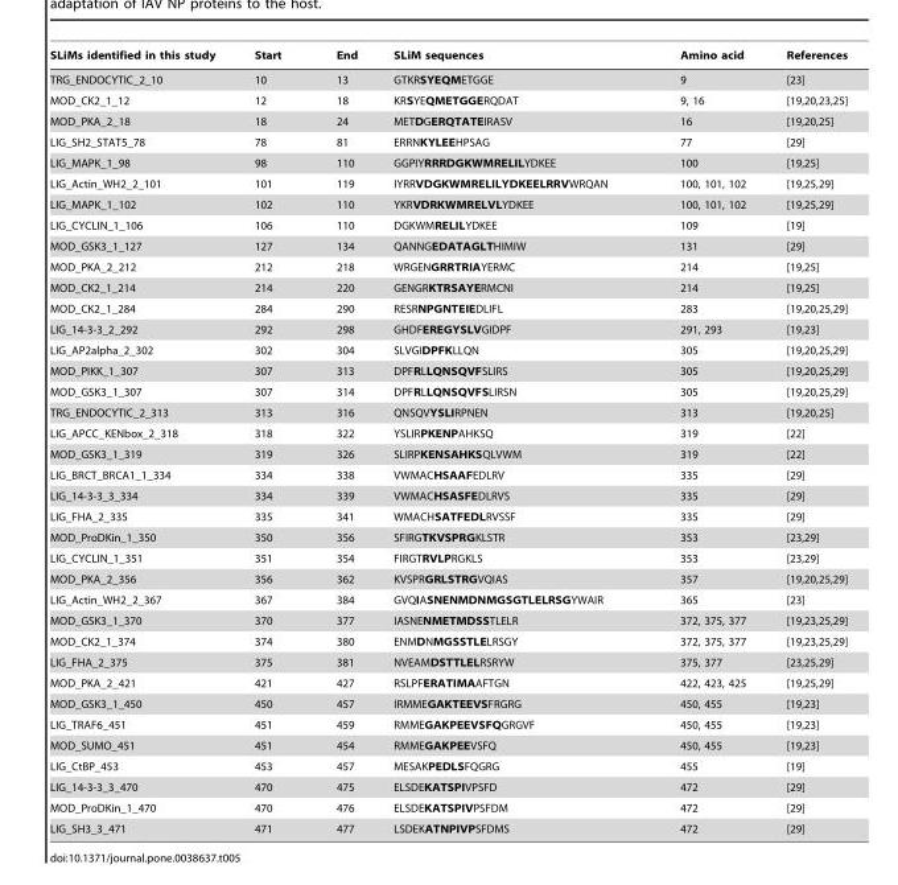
<table><thead><tr><td>SLiMs identified in this study</td><td>Start</td><td>End</td><td>SLiM sequences</td><td>Amino acid</td><td>References</td></tr></thead><tbody><tr><td>TRG_ENDOCYTIC_2_10</td><td>10</td><td>13</td><td>GTKRSYEQMETGGE</td><td>9</td><td>[23]</td></tr><tr><td>MOD_CK2_1_12</td><td>12</td><td>18</td><td>KRSYEQMETGGERQDAT</td><td>9, 16</td><td>[19,20,23,25]</td></tr><tr><td>MOD_PKA_2_18</td><td>18</td><td>24</td><td>METDGERQTATEIRASV</td><td>16</td><td>[19,20,25]</td></tr><tr><td>LIG_SH2_STAT5_78</td><td>78</td><td>81</td><td>ERRNKYLEEHPSAG</td><td>77</td><td>[29]</td></tr><tr><td>LIG_MAPK_1_98</td><td>98</td><td>110</td><td>GGPIYRRRDGKWMRELILYDKEE</td><td>100</td><td>[19,25]</td></tr><tr><td>LIG_Actin_WH2_2_101</td><td>101</td><td>119</td><td>IYRRVDGKWMRELILYDKEELRRVWRQAN</td><td>100, 101, 102</td><td>[19,25,29]</td></tr><tr><td>LIG_MAPK_1_102</td><td>102</td><td>110</td><td>YKRVDRKWMRELVLYDKEE</td><td>100, 101, 102</td><td>[19,25,29]</td></tr><tr><td>LIG_CYCLIN_1_106</td><td>106</td><td>110</td><td>DGKWMRELILYDKEE</td><td>109</td><td>[19]</td></tr><tr><td>MOD_GSK3_1_127</td><td>127</td><td>134</td><td>QANNGEDATAGLTHIMIW</td><td>131</td><td>[29]</td></tr><tr><td>MOD_PKA_2_212</td><td>212</td><td>218</td><td>WRGENGRRTRIAYERMC</td><td>214</td><td>[19,25]</td></tr><tr><td>MOD_CK2_1_214</td><td>214</td><td>220</td><td>GENGRKTRSAYERMCNI</td><td>214</td><td>[19,25]</td></tr><tr><td>MOD_CK2_1_284</td><td>284</td><td>290</td><td>RESRNPGNTEIEDLIFL</td><td>283</td><td>[19,20,25,29]</td></tr><tr><td>LIG_14-3-3_2_292</td><td>292</td><td>298</td><td>GHDFEREGYSLVGIDPF</td><td>291, 293</td><td>[19,23]</td></tr><tr><td>LIG_AP2alpha_2_302</td><td>302</td><td>304</td><td>SLVGIDPFKLLQN</td><td>305</td><td>[19,20,25,29]</td></tr><tr><td>MOD_PIKK_1_307</td><td>307</td><td>313</td><td>DPFRLLQNSQVFSLIRS</td><td>305</td><td>[19,20,25,29]</td></tr><tr><td>MOD_GSK3_1_307</td><td>307</td><td>314</td><td>DPFRLLQNSQVFSLIRSN</td><td>305</td><td>[19,20,25,29]</td></tr><tr><td>TRG_ENDOCYTIC_2_313</td><td>313</td><td>316</td><td>QNSQVYSLIRPNEN</td><td>313</td><td>[19,20,25]</td></tr><tr><td>LIG_APCC_KENbox_2_318</td><td>318</td><td>322</td><td>YSLIRPKENPAHKSQ</td><td>319</td><td>[22]</td></tr><tr><td>MOD_GSK3_1_319</td><td>319</td><td>326</td><td>SLIRPKENSAHKSQLVWM</td><td>319</td><td>[22]</td></tr><tr><td>LIG_BRCT_BRCA1_1_334</td><td>334</td><td>338</td><td>VWMACHSAAFEDLRV</td><td>335</td><td>[29]</td></tr><tr><td>LIG_14-3-3_3_334</td><td>334</td><td>339</td><td>VWMACHSASFEDLRVS</td><td>335</td><td>[29]</td></tr><tr><td>LIG_FHA_2_335</td><td>335</td><td>341</td><td>WMACHSATFEDLRVSSF</td><td>335</td><td>[29]</td></tr><tr><td>MOD_ProDKin_1_350</td><td>350</td><td>356</td><td>SFIRGTKVSPRGKLSTR</td><td>353</td><td>[23,29]</td></tr><tr><td>LIG_CYCLIN_1_351</td><td>351</td><td>354</td><td>FIRGTRVLPRGKLS</td><td>353</td><td>[23,29]</td></tr><tr><td>MOD_PKA_2_356</td><td>356</td><td>362</td><td>KVSPRGRLSTRGVQIAS</td><td>357</td><td>[19,20,25,29]</td></tr><tr><td>LIG_Actin_WH2_2_367</td><td>367</td><td>384</td><td>GVQIASNENMDNMGSGTLELRSGYWAIR</td><td>365</td><td>[23]</td></tr><tr><td>MOD_GSK3_1_370</td><td>370</td><td>377</td><td>IASNENMETMDSSTLELR</td><td>372, 375, 377</td><td>[19,23,25,29]</td></tr><tr><td>MOD_CK2_1_374</td><td>374</td><td>380</td><td>ENMDNMGSSTLELRSGY</td><td>372, 375, 377</td><td>[19,23,25,29]</td></tr><tr><td>LIG_FHA_2_375</td><td>375</td><td>381</td><td>NVEAMDSTTLELRSRYW</td><td>375, 377</td><td>[23,25,29]</td></tr><tr><td>MOD_PKA_2_421</td><td>421</td><td>427</td><td>RSLPFERATIMAAFTGN</td><td>422, 423, 425</td><td>[19,25,29]</td></tr><tr><td>MOD_GSK3_1_450</td><td>450</td><td>457</td><td>IRMMEGAKTEEVSFRGRG</td><td>450, 455</td><td>[19,23]</td></tr><tr><td>LIG_TRAF6_451</td><td>451</td><td>459</td><td>RMMEGAKPEEVSFQGRGVF</td><td>450, 455</td><td>[19,23]</td></tr><tr><td>MOD_SUMO_451</td><td>451</td><td>454</td><td>RMMEGAKPEEVSFQ</td><td>450, 455</td><td>[19,23]</td></tr><tr><td>LIG_CtBP_453</td><td>453</td><td>457</td><td>MESAKPEDLSFQGRG</td><td>455</td><td>[19]</td></tr><tr><td>LIG_14-3-3_3_470</td><td>470</td><td>475</td><td>ELSDEKATSPIVPSFD</td><td>472</td><td>[29]</td></tr><tr><td>MOD_ProDKin_1_470</td><td>470</td><td>476</td><td>ELSDEKATSPIVPSFDM</td><td>472</td><td>[29]</td></tr><tr><td>LIG_SH3_3_471</td><td>471</td><td>477</td><td>LSDEKATNPIVPSFDMS</td><td>472</td><td>[29]</td></tr></tbody></table>